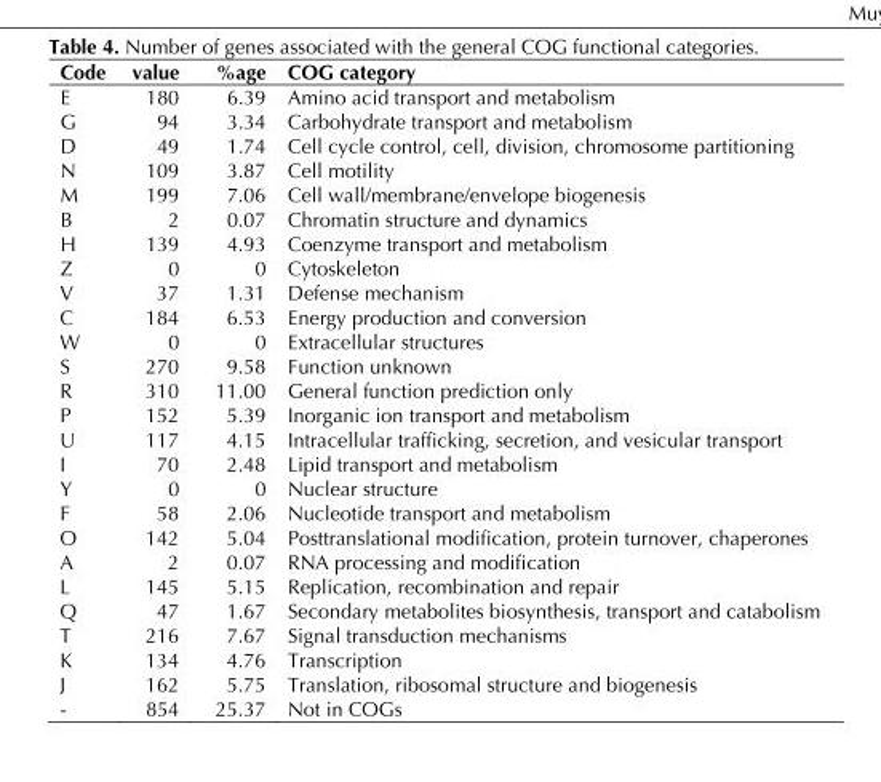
<table><thead><tr><td>Code</td><td>value</td><td>%age</td><td>COG category</td></tr></thead><tbody><tr><td>E</td><td>180</td><td>6.39</td><td>Amino acid transport and metabolism</td></tr><tr><td>G</td><td>94</td><td>3.34</td><td>Carbohydrate transport and metabolism</td></tr><tr><td>D</td><td>49</td><td>1.74</td><td>Cell cycle control, cell, division, chromosome partitioning</td></tr><tr><td>N</td><td>109</td><td>3.87</td><td>Cell motility</td></tr><tr><td>M</td><td>199</td><td>7.06</td><td>Cell wall/membrane/envelope biogenesis</td></tr><tr><td>B</td><td>2</td><td>0.07</td><td>Chromatin structure and dynamics</td></tr><tr><td>H</td><td>139</td><td>4.93</td><td>Coenzyme transport and metabolism</td></tr><tr><td>Z</td><td>0</td><td>0</td><td>Cytoskeleton</td></tr><tr><td>V</td><td>37</td><td>1.31</td><td>Defense mechanism</td></tr><tr><td>C</td><td>184</td><td>6.53</td><td>Energy production and conversion</td></tr><tr><td>W</td><td>0</td><td>0</td><td>Extracellular structures</td></tr><tr><td>S</td><td>270</td><td>9.58</td><td>Function unknown</td></tr><tr><td>R</td><td>310</td><td>11.00</td><td>General function prediction only</td></tr><tr><td>P</td><td>152</td><td>5.39</td><td>Inorganic ion transport and metabolism</td></tr><tr><td>U</td><td>117</td><td>4.15</td><td>Intracellular trafficking, secretion, and vesicular transport</td></tr><tr><td>I</td><td>70</td><td>2.48</td><td>Lipid transport and metabolism</td></tr><tr><td>Y</td><td>0</td><td>0</td><td>Nuclear structure</td></tr><tr><td>F</td><td>58</td><td>2.06</td><td>Nucleotide transport and metabolism</td></tr><tr><td>O</td><td>142</td><td>5.04</td><td>Posttranslational modification, protein turnover, chaperones</td></tr><tr><td>A</td><td>2</td><td>0.07</td><td>RNA processing and modification</td></tr><tr><td>L</td><td>145</td><td>5.15</td><td>Replication, recombination and repair</td></tr><tr><td>Q</td><td>47</td><td>1.67</td><td>Secondary metabolites biosynthesis, transport and catabolism</td></tr><tr><td>T</td><td>216</td><td>7.67</td><td>Signal transduction mechanisms</td></tr><tr><td>K</td><td>134</td><td>4.76</td><td>Transcription</td></tr><tr><td>J</td><td>162</td><td>5.75</td><td>Translation, ribosomal structure and biogenesis</td></tr><tr><td>-</td><td>854</td><td>25.37</td><td>Not in COGs</td></tr></tbody></table>